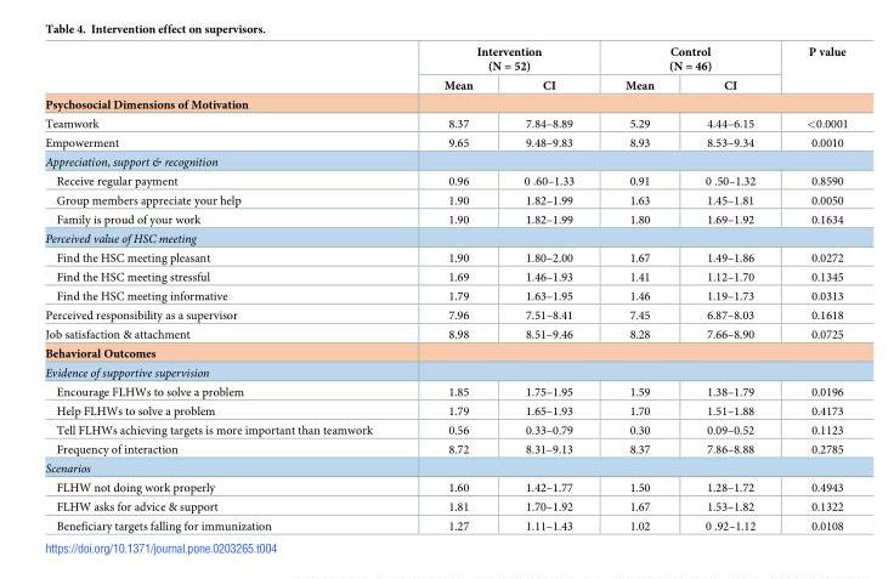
<table><thead><tr><td rowspan="2"></td><td colspan="2">Intervention (N = 52)</td><td colspan="2">Control (N = 46)</td><td rowspan="2">P value</td></tr><tr><td>Mean</td><td>CI</td><td>Mean</td><td>CI</td></tr></thead><tbody><tr><td colspan="6">Psychosocial Dimensions of Motivation</td></tr><tr><td>Teamwork</td><td>8.37</td><td>7.84–8.89</td><td>5.29</td><td>4.44–6.15</td><td>&lt;0.0001</td></tr><tr><td>Empowerment</td><td>9.65</td><td>9.48–9.83</td><td>8.93</td><td>8.53–9.34</td><td>0.0010</td></tr><tr><td colspan="6">Appreciation, support &amp; recognition</td></tr><tr><td>Receive regular payment</td><td>0.96</td><td>0 .60–1.33</td><td>0.91</td><td>0 .50–1.32</td><td>0.8590</td></tr><tr><td>Group members appreciate your help</td><td>1.90</td><td>1.82–1.99</td><td>1.63</td><td>1.45–1.81</td><td>0.0050</td></tr><tr><td>Family is proud of your work</td><td>1.90</td><td>1.82–1.99</td><td>1.80</td><td>1.69–1.92</td><td>0.1634</td></tr><tr><td colspan="6">Perceived value of HSC meeting</td></tr><tr><td>Find the HSC meeting pleasant</td><td>1.90</td><td>1.80–2.00</td><td>1.67</td><td>1.49–1.86</td><td>0.0272</td></tr><tr><td>Find the HSC meeting stressful</td><td>1.69</td><td>1.46–1.93</td><td>1.41</td><td>1.12–1.70</td><td>0.1345</td></tr><tr><td>Find the HSC meeting informative</td><td>1.79</td><td>1.63–1.95</td><td>1.46</td><td>1.19–1.73</td><td>0.0313</td></tr><tr><td>Perceived responsibility as a supervisor</td><td>7.96</td><td>7.51–8.41</td><td>7.45</td><td>6.87–8.03</td><td>0.1618</td></tr><tr><td>Job satisfaction &amp; attachment</td><td>8.98</td><td>8.51–9.46</td><td>8.28</td><td>7.66–8.90</td><td>0.0725</td></tr><tr><td colspan="6">Behavioral Outcomes</td></tr><tr><td colspan="6">Evidence of supportive supervision</td></tr><tr><td>Encourage FLHWs to solve a problem</td><td>1.85</td><td>1.75–1.95</td><td>1.59</td><td>1.38–1.79</td><td>0.0196</td></tr><tr><td>Help FLHWs to solve a problem</td><td>1.79</td><td>1.65–1.93</td><td>1.70</td><td>1.51–1.88</td><td>0.4173</td></tr><tr><td>Tell FLHWs achieving targets is more important than teamwork</td><td>0.56</td><td>0.33–0.79</td><td>0.30</td><td>0.09–0.52</td><td>0.1123</td></tr><tr><td>Frequency of interaction</td><td>8.72</td><td>8.31–9.13</td><td>8.37</td><td>7.86–8.88</td><td>0.2785</td></tr><tr><td colspan="6">Scenarios</td></tr><tr><td>FLHW not doing work properly</td><td>1.60</td><td>1.42–1.77</td><td>1.50</td><td>1.28–1.72</td><td>0.4943</td></tr><tr><td>FLHW asks for advice &amp; support</td><td>1.81</td><td>1.70–1.92</td><td>1.67</td><td>1.53–1.82</td><td>0.1322</td></tr><tr><td>Beneficiary targets falling for immunization</td><td>1.27</td><td>1.11–1.43</td><td>1.02</td><td>0 .92–1.12</td><td>0.0108</td></tr></tbody></table>